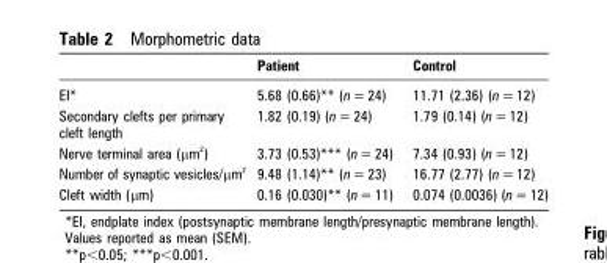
<table><thead><tr><td></td><td>Patient</td><td>Control</td></tr></thead><tbody><tr><td>EI*</td><td>5.68 (0.66)** (n = 24)</td><td>11.71 (2.36) (n = 12)</td></tr><tr><td>Secondary clefts per primary cleft length</td><td>1.82 (0.19) (n = 24)</td><td>1.79 (0.14) (n = 12)</td></tr><tr><td>Nerve terminal area (μm <sup>2</sup>)</td><td>3.73 (0.53)*** (n = 24)</td><td>7.34 (0.93) (n = 12)</td></tr><tr><td>Number of synaptic vesicles/μm <sup>2</sup></td><td>9.48 (1.14)** (n = 23)</td><td>16.77 (2.77) (n = 12)</td></tr><tr><td>Cleft width (μm)</td><td>0.16 (0.030)** (n = 11)</td><td>0.074 (0.0036) (n = 12)</td></tr></tbody></table>